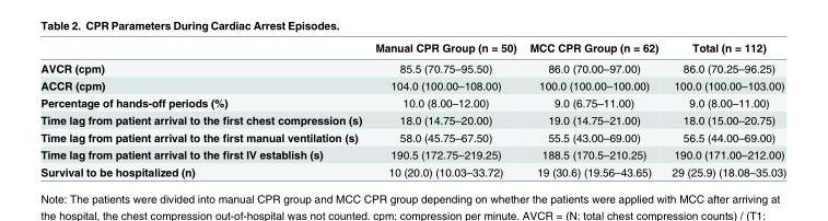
<table><thead><tr><td></td><td>Manual CPR Group (n = 50)</td><td>MCC CPR Group (n = 62)</td><td>Total (n = 112)</td></tr></thead><tbody><tr><td>AVCR (cpm)</td><td>85.5 (70.75–95.50)</td><td>86.0 (70.00–97.00)</td><td>86.0 (70.25–96.25)</td></tr><tr><td>ACCR (cpm)</td><td>104.0 (100.00–108.00)</td><td>100.0 (100.00–100.00)</td><td>100.0 (100.00–103.00)</td></tr><tr><td>Percentage of hands-off periods (%)</td><td>10.0 (8.00–12.00)</td><td>9.0 (6.75–11.00)</td><td>9.0 (8.00–11.00)</td></tr><tr><td>Time lag from patient arrival to the first chest compression (s)</td><td>18.0 (14.75–20.00)</td><td>19.0 (14.75–21.00)</td><td>18.0 (15.00–20.75)</td></tr><tr><td>Time lag from patient arrival to the first manual ventilation (s)</td><td>58.0 (45.75–67.50)</td><td>55.5 (43.00–69.00)</td><td>56.5 (44.00–69.00)</td></tr><tr><td>Time lag from patient arrival to the first IV establish (s)</td><td>190.5 (172.75–219.25)</td><td>188.5 (170.5–210.25)</td><td>190.0 (171.00–212.00)</td></tr><tr><td>Survival to be hospitalized (n)</td><td>10 (20.0) (10.03–33.72)</td><td>19 (30.6) (19.56–43.65)</td><td>29 (25.9) (18.08–35.03)</td></tr></tbody></table>